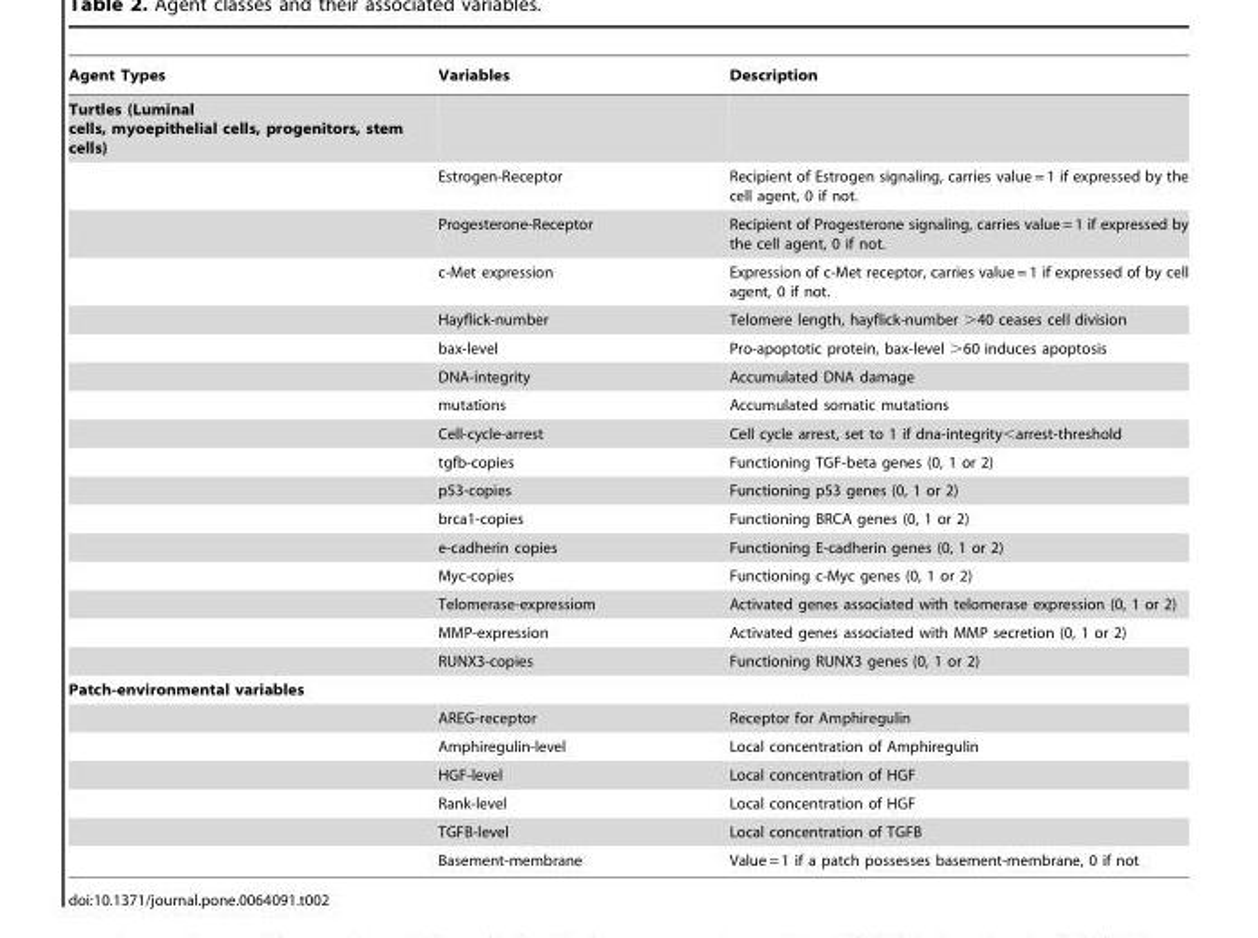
<table><thead><tr><td>Agent Types</td><td>Variables</td><td>Description</td></tr></thead><tbody><tr><td colspan="3">Turtles (Luminal cells, myoepithelial cells, progenitors, stem cells)</td></tr><tr><td></td><td>Estrogen-Receptor</td><td>Recipient of Estrogen signaling, carries value = 1 if expressed by the cell agent, 0 if not.</td></tr><tr><td></td><td>Progesterone-Receptor</td><td>Recipient of Progesterone signaling, carries value = 1 if expressed by the cell agent, 0 if not.</td></tr><tr><td></td><td>c-Met expression</td><td>Expression of c-Met receptor, carries value = 1 if expressed of by cell agent, 0 if not.</td></tr><tr><td></td><td>Hayflick-number</td><td>Telomere length, hayflick-number &gt;40 ceases cell division</td></tr><tr><td></td><td>bax-level</td><td>Pro-apoptotic protein, bax-level &gt;60 induces apoptosis</td></tr><tr><td></td><td>DNA-integrity</td><td>Accumulated DNA damage</td></tr><tr><td></td><td>mutations</td><td>Accumulated somatic mutations</td></tr><tr><td></td><td>Cell-cycle-arrest</td><td>Cell cycle arrest, set to 1 if dna-integrity&lt;arrest-threshold</td></tr><tr><td></td><td>tgfb-copies</td><td>Functioning TGF-beta genes (0, 1 or 2)</td></tr><tr><td></td><td>p53-copies</td><td>Functioning p53 genes (0, 1 or 2)</td></tr><tr><td></td><td>brca1-copies</td><td>Functioning BRCA genes (0, 1 or 2)</td></tr><tr><td></td><td>e-cadherin copies</td><td>Functioning E-cadherin genes (0, 1 or 2)</td></tr><tr><td></td><td>Myc-copies</td><td>Functioning c-Myc genes (0, 1 or 2)</td></tr><tr><td></td><td>Telomerase-expressiom</td><td>Activated genes associated with telomerase expression (0, 1 or 2)</td></tr><tr><td></td><td>MMP-expression</td><td>Activated genes associated with MMP secretion (0, 1 or 2)</td></tr><tr><td></td><td>RUNX3-copies</td><td>Functioning RUNX3 genes (0, 1 or 2)</td></tr><tr><td colspan="3">Patch-environmental variables</td></tr><tr><td></td><td>AREG-receptor</td><td>Receptor for Amphiregulin</td></tr><tr><td></td><td>Amphiregulin-level</td><td>Local concentration of Amphiregulin</td></tr><tr><td></td><td>HGF-level</td><td>Local concentration of HGF</td></tr><tr><td></td><td>Rank-level</td><td>Local concentration of HGF</td></tr><tr><td></td><td>TGFB-level</td><td>Local concentration of TGFB</td></tr><tr><td></td><td>Basement-membrane</td><td>Value = 1 if a patch possesses basement-membrane, 0 if not</td></tr></tbody></table>